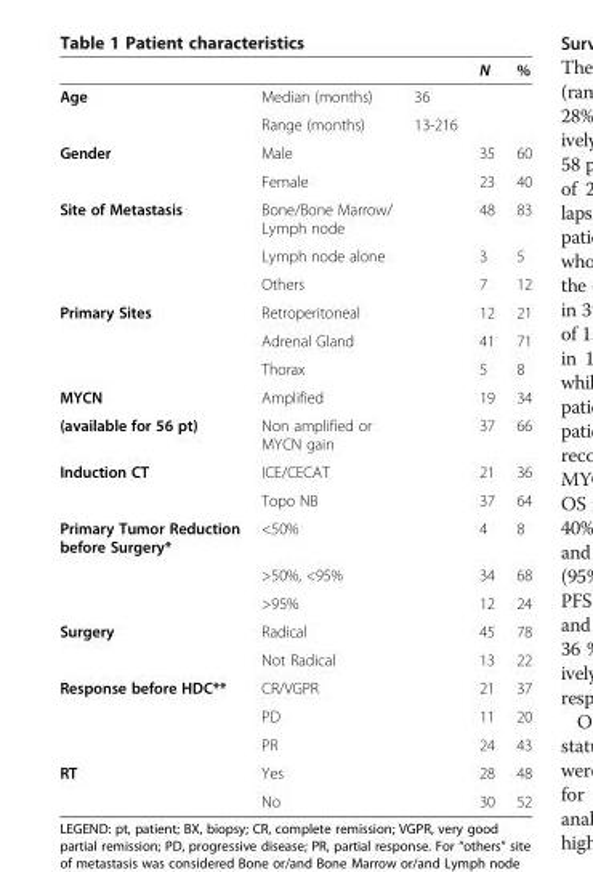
<table><thead><tr><td></td><td></td><td></td><td>N</td><td>%</td></tr></thead><tbody><tr><td rowspan="2">Age</td><td>Median (months)</td><td>36</td><td></td><td rowspan="2"></td></tr><tr><td>Range (months)</td><td>13-216</td><td></td></tr><tr><td rowspan="2">Gender</td><td>Male</td><td></td><td>35</td><td>60</td></tr><tr><td>Female</td><td></td><td>23</td><td>40</td></tr><tr><td rowspan="3">Site of Metastasis</td><td>Bone/Bone Marrow/ Lymph node</td><td></td><td>48</td><td>83</td></tr><tr><td>Lymph node alone</td><td></td><td>3</td><td>5</td></tr><tr><td>Others</td><td></td><td>7</td><td>12</td></tr><tr><td rowspan="3">Primary Sites</td><td>Retroperitoneal</td><td></td><td>12</td><td>21</td></tr><tr><td>Adrenal Gland</td><td></td><td>41</td><td>71</td></tr><tr><td>Thorax</td><td></td><td>5</td><td>8</td></tr><tr><td>MYCN</td><td>Amplified</td><td></td><td>19</td><td>34</td></tr><tr><td>(available for 56 pt)</td><td>Non amplified or MYCN gain</td><td></td><td>37</td><td>66</td></tr><tr><td rowspan="2">Induction CT</td><td>ICE/CECAT</td><td></td><td>21</td><td>36</td></tr><tr><td>Topo NB</td><td></td><td>37</td><td>64</td></tr><tr><td rowspan="3">Primary Tumor Reduction before Surgery*</td><td>&lt;50%</td><td></td><td>4</td><td>8</td></tr><tr><td>&gt;50%, &lt;95%</td><td></td><td>34</td><td>68</td></tr><tr><td>&gt;95%</td><td></td><td>12</td><td>24</td></tr><tr><td rowspan="2">Surgery</td><td>Radical</td><td></td><td>45</td><td>78</td></tr><tr><td>Not Radical</td><td></td><td>13</td><td>22</td></tr><tr><td rowspan="3">Response before HDC**</td><td>CR/VGPR</td><td></td><td>21</td><td>37</td></tr><tr><td>PD</td><td></td><td>11</td><td>20</td></tr><tr><td>PR</td><td></td><td>24</td><td>43</td></tr><tr><td rowspan="2">RT</td><td>Yes</td><td></td><td>28</td><td>48</td></tr><tr><td>No</td><td></td><td>30</td><td>52</td></tr></tbody></table>